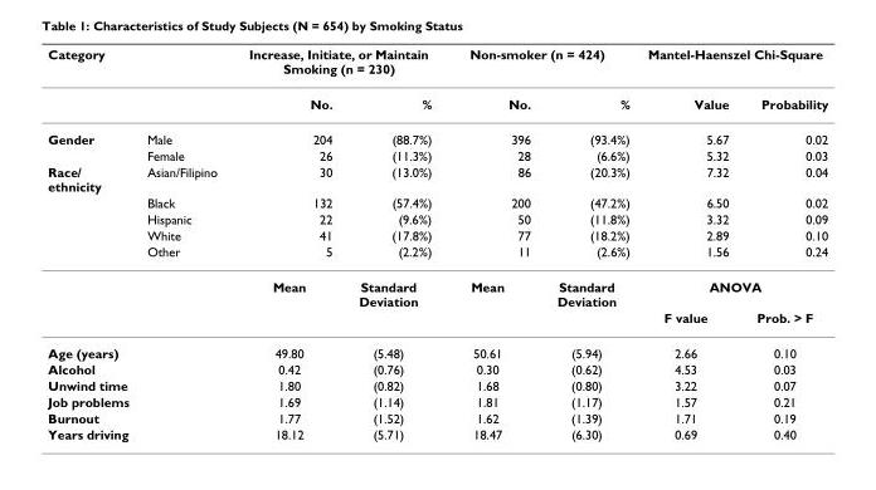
<table><thead><tr><td rowspan="2">Category</td><td rowspan="2"></td><td colspan="2">Increase, Initiate, or Maintain Smoking (n = 230)</td><td colspan="2">Non-smoker (n = 424)</td><td colspan="2">Mantel-Haenszel Chi-Square</td></tr><tr><td>No.</td><td>%</td><td>No.</td><td>%</td><td>Value</td><td>Probability</td></tr></thead><tbody><tr><td rowspan="2">Gender</td><td>Male</td><td>204</td><td>(88.7%)</td><td>396</td><td>(93.4%)</td><td>5.67</td><td>0.02</td></tr><tr><td>Female</td><td>26</td><td>(11.3%)</td><td>28</td><td>(6.6%)</td><td>5.32</td><td>0.03</td></tr><tr><td rowspan="7">Race/ ethnicity</td><td>Asian/Filipino</td><td>30</td><td>(13.0%)</td><td>86</td><td>(20.3%)</td><td>7.32</td><td>0.04</td></tr><tr><td>Black</td><td>132</td><td>(57.4%)</td><td>200</td><td>(47.2%)</td><td>6.50</td><td>0.02</td></tr><tr><td>Hispanic</td><td>22</td><td>(9.6%)</td><td>50</td><td>(11.8%)</td><td>3.32</td><td>0.09</td></tr><tr><td>White</td><td>41</td><td>(17.8%)</td><td>77</td><td>(18.2%)</td><td>2.89</td><td>0.10</td></tr><tr><td>Other</td><td>5</td><td>(2.2%)</td><td>11</td><td>(2.6%)</td><td>1.56</td><td>0.24</td></tr><tr><td></td><td>Mean</td><td>Standard Deviation</td><td>Mean</td><td>Standard Deviation</td><td colspan="2">ANOVA</td></tr><tr><td></td><td></td><td></td><td></td><td></td><td>F value</td><td>Prob. &gt; F</td></tr><tr><td>Age (years)</td><td></td><td>49.80</td><td>(5.48)</td><td>50.61</td><td>(5.94)</td><td>2.66</td><td>0.10</td></tr><tr><td>Alcohol</td><td></td><td>0.42</td><td>(0.76)</td><td>0.30</td><td>(0.62)</td><td>4.53</td><td>0.03</td></tr><tr><td>Unwind time</td><td></td><td>1.80</td><td>(0.82)</td><td>1.68</td><td>(0.80)</td><td>3.22</td><td>0.07</td></tr><tr><td>Job problems</td><td></td><td>1.69</td><td>(1.14)</td><td>1.81</td><td>(1.17)</td><td>1.57</td><td>0.21</td></tr><tr><td>Burnout</td><td></td><td>1.77</td><td>(1.52)</td><td>1.62</td><td>(1.39)</td><td>1.71</td><td>0.19</td></tr><tr><td>Years driving</td><td></td><td>18.12</td><td>(5.71)</td><td>18.47</td><td>(6.30)</td><td>0.69</td><td>0.40</td></tr></tbody></table>